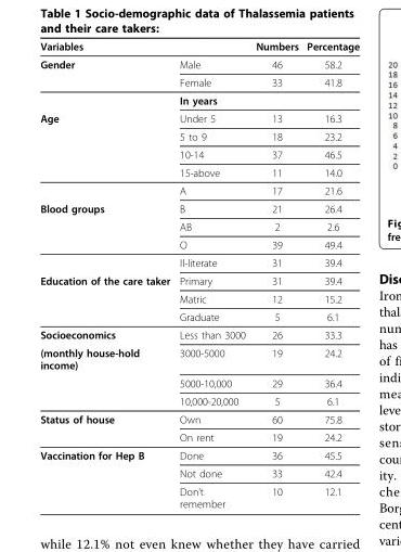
<table><thead><tr><td colspan="2">Variables</td><td rowspan="2">Numbers 46</td><td rowspan="2">Percentage 58.2</td></tr><tr><td>Gender</td><td>Male</td></tr></thead><tbody><tr><td></td><td>Female</td><td>33</td><td>41.8</td></tr><tr><td></td><td>In years</td><td></td><td></td></tr><tr><td rowspan="5">Age</td><td>Under 5</td><td>13</td><td>16.3</td></tr><tr><td>5 to 9</td><td>18</td><td>23.2</td></tr><tr><td>10-14</td><td>37</td><td>46.5</td></tr><tr><td>15-above</td><td>11</td><td>14.0</td></tr><tr><td>A</td><td>17</td><td>21.6</td></tr><tr><td rowspan="4">Blood groups</td><td>B</td><td>21</td><td>26.4</td></tr><tr><td>AB</td><td>2</td><td>2.6</td></tr><tr><td>O</td><td>39</td><td>49.4</td></tr><tr><td>Il-literate</td><td>31</td><td>39.4</td></tr><tr><td rowspan="3">Education of the care taker</td><td>Primary</td><td>31</td><td>39.4</td></tr><tr><td>Matric</td><td>12</td><td>15.2</td></tr><tr><td>Graduate</td><td>5</td><td>6.1</td></tr><tr><td>Socioeconomics</td><td>Less than 3000</td><td>26</td><td>33.3</td></tr><tr><td rowspan="3">(monthly house-hold income)</td><td>3000-5000</td><td>19</td><td>24.2</td></tr><tr><td>5000-10,000</td><td>29</td><td>36.4</td></tr><tr><td>10,000-20,000</td><td>5</td><td>6.1</td></tr><tr><td rowspan="2">Status of house</td><td>Own</td><td>60</td><td>75.8</td></tr><tr><td>On rent</td><td>19</td><td>24.2</td></tr><tr><td rowspan="3">Vaccination for Hep B</td><td>Done</td><td>36</td><td>45.5</td></tr><tr><td>Not done</td><td>33</td><td>42.4</td></tr><tr><td>Don’t remember</td><td>10</td><td>12.1</td></tr></tbody></table>